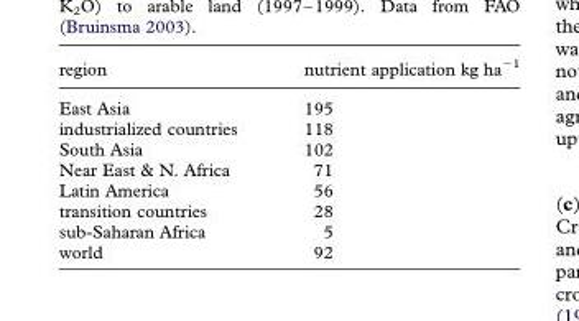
<table><thead><tr><td>region</td><td>nutrient application kg ha<sup>−1</sup></td></tr></thead><tbody><tr><td>East Asia</td><td>195</td></tr><tr><td>industrialized countries</td><td>118</td></tr><tr><td>South Asia</td><td>102</td></tr><tr><td>Near East &amp; N. Africa</td><td>71</td></tr><tr><td>Latin America</td><td>56</td></tr><tr><td>transition countries</td><td>28</td></tr><tr><td>sub-Saharan Africa</td><td>5</td></tr><tr><td>world</td><td>92</td></tr></tbody></table>